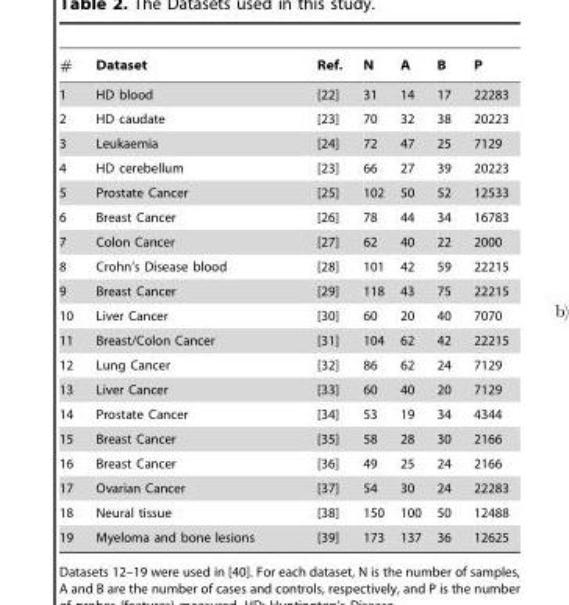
<table><thead><tr><td>#</td><td>Dataset</td><td>Ref.</td><td>N</td><td>A</td><td>B</td><td>P</td></tr></thead><tbody><tr><td>1</td><td>HD blood</td><td>[22]</td><td>31</td><td>14</td><td>17</td><td>22283</td></tr><tr><td>2</td><td>HD caudate</td><td>[23]</td><td>70</td><td>32</td><td>38</td><td>20223</td></tr><tr><td>3</td><td>Leukaemia</td><td>[24]</td><td>72</td><td>47</td><td>25</td><td>7129</td></tr><tr><td>4</td><td>HD cerebellum</td><td>[23]</td><td>66</td><td>27</td><td>39</td><td>20223</td></tr><tr><td>5</td><td>Prostate Cancer</td><td>[25]</td><td>102</td><td>50</td><td>52</td><td>12533</td></tr><tr><td>6</td><td>Breast Cancer</td><td>[26]</td><td>78</td><td>44</td><td>34</td><td>16783</td></tr><tr><td>7</td><td>Colon Cancer</td><td>[27]</td><td>62</td><td>40</td><td>22</td><td>2000</td></tr><tr><td>8</td><td>Crohn’s Disease blood</td><td>[28]</td><td>101</td><td>42</td><td>59</td><td>22215</td></tr><tr><td>9</td><td>Breast Cancer</td><td>[29]</td><td>118</td><td>43</td><td>75</td><td>22215</td></tr><tr><td>10</td><td>Liver Cancer</td><td>[30]</td><td>60</td><td>20</td><td>40</td><td>7070</td></tr><tr><td>11</td><td>Breast/Colon Cancer</td><td>[31]</td><td>104</td><td>62</td><td>42</td><td>22215</td></tr><tr><td>12</td><td>Lung Cancer</td><td>[32]</td><td>86</td><td>62</td><td>24</td><td>7129</td></tr><tr><td>13</td><td>Liver Cancer</td><td>[33]</td><td>60</td><td>40</td><td>20</td><td>7129</td></tr><tr><td>14</td><td>Prostate Cancer</td><td>[34]</td><td>53</td><td>19</td><td>34</td><td>4344</td></tr><tr><td>15</td><td>Breast Cancer</td><td>[35]</td><td>58</td><td>28</td><td>30</td><td>2166</td></tr><tr><td>16</td><td>Breast Cancer</td><td>[36]</td><td>49</td><td>25</td><td>24</td><td>2166</td></tr><tr><td>17</td><td>Ovarian Cancer</td><td>[37]</td><td>54</td><td>30</td><td>24</td><td>22283</td></tr><tr><td>18</td><td>Neural tissue</td><td>[38]</td><td>150</td><td>100</td><td>50</td><td>12488</td></tr><tr><td>19</td><td>Myeloma and bone lesions</td><td>[39]</td><td>173</td><td>137</td><td>36</td><td>12625</td></tr></tbody></table>